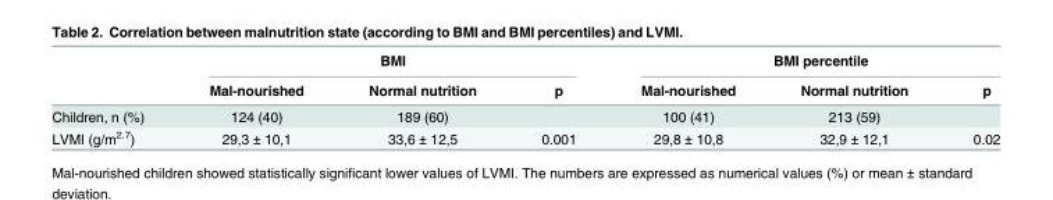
<table><thead><tr><td rowspan="2"></td><td colspan="3">BMI</td><td colspan="3">BMI percentile</td></tr><tr><td>Mal-nourished</td><td>Normal nutrition</td><td>p</td><td>Mal-nourished</td><td>Normal nutrition</td><td>p</td></tr></thead><tbody><tr><td>Children, n (%)</td><td>124 (40)</td><td>189 (60)</td><td></td><td>100 (41)</td><td>213 (59)</td><td></td></tr><tr><td>LVMI (g/m<sup>2.7</sup>)</td><td>29,3 ± 10,1</td><td>33,6 ± 12,5</td><td>0.001</td><td>29,8 ± 10,8</td><td>32,9 ± 12,1</td><td>0.02</td></tr></tbody></table>